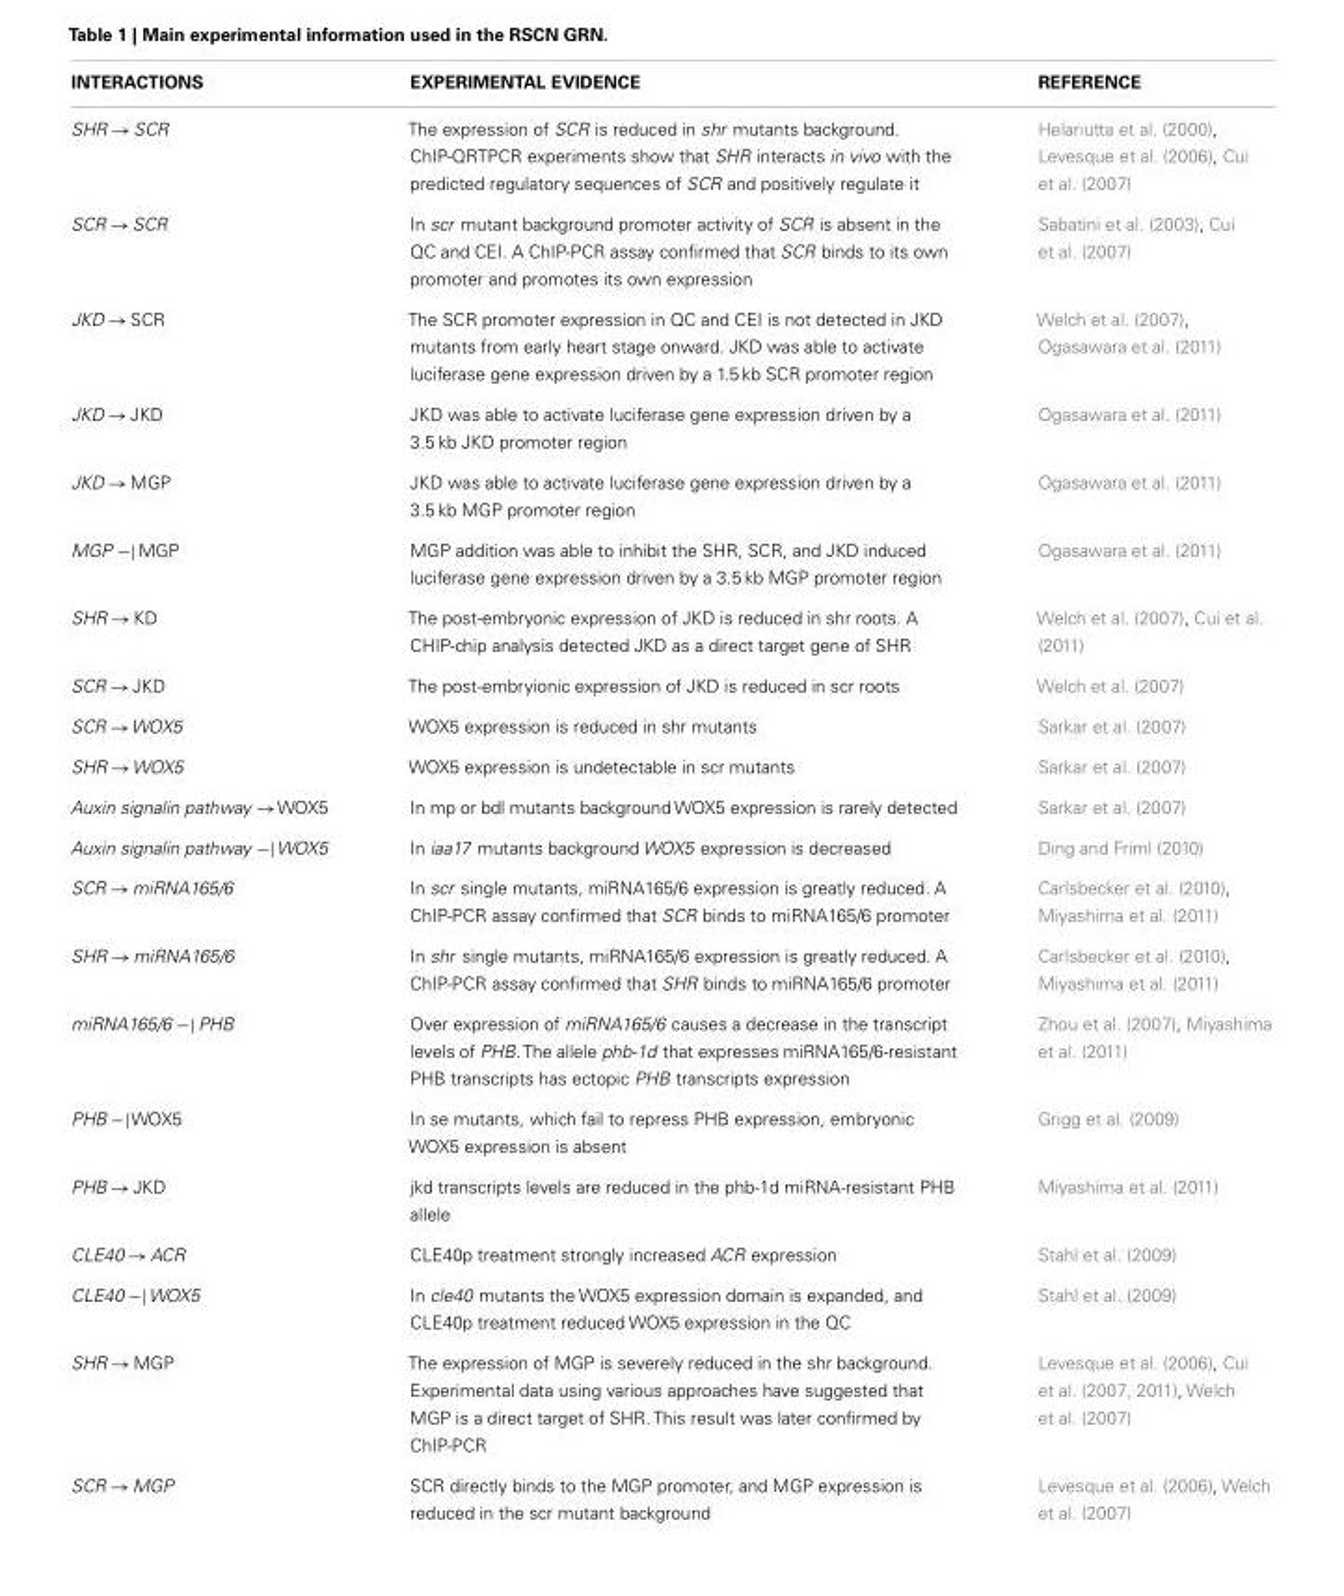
<table><thead><tr><td>INTERACTIONS</td><td>EXPERIMENTAL EVIDENCE</td><td>REFERENCE</td></tr></thead><tbody><tr><td>SHR → SCR</td><td>The expression of SCR is reduced in shr mutants background. ChIP-QRTPCR experiments show that SHR interacts in vivo with the predicted regulatory sequences of SCR and positively regulate it</td><td>Helariutta et al. (2000), Levesque et al. (2006), Cui et al. (2007)</td></tr><tr><td>SCR → SCR</td><td>In scr mutant background promoter activity of SCR is absent in the QC and CEI. A ChIP-PCR assay confirmed that SCR binds to its own promoter and promotes its own expression</td><td>Sabatini et al. (2003), Cui et al. (2007)</td></tr><tr><td>JKD → SCR</td><td>The SCR promoter expression in QC and CEI is not detected in JKD mutants from early heart stage onward. JKD was able to activate luciferase gene expression driven by a 1.5 kb SCR promoter region</td><td>Welch et al. (2007), Ogasawara et al. (2011)</td></tr><tr><td>JKD → JKD</td><td>JKD was able to activate luciferase gene expression driven by a 3.5 kb JKD promoter region</td><td>Ogasawara et al. (2011)</td></tr><tr><td>JKD → MGP</td><td>JKD was able to activate luciferase gene expression driven by a 3.5 kb MGP promoter region</td><td>Ogasawara et al. (2011)</td></tr><tr><td>MGP −| MGP</td><td>MGP addition was able to inhibit the SHR, SCR, and JKD induced luciferase gene expression driven by a 3.5 kb MGP promoter region</td><td>Ogasawara et al. (2011)</td></tr><tr><td>SHR → KD</td><td>The post-embryonic expression of JKD is reduced in shr roots. A CHIP-chip analysis detected JKD as a direct target gene of SHR</td><td>Welch et al. (2007), Cui et al. (2011)</td></tr><tr><td>SCR → JKD</td><td>The post-embryionic expression of JKD is reduced in scr roots</td><td>Welch et al. (2007)</td></tr><tr><td>SCR →WOX5</td><td>WOX5 expression is reduced in shr mutants</td><td>Sarkar et al. (2007)</td></tr><tr><td>SHR →WOX5</td><td>WOX5 expression is undetectable in scr mutants</td><td>Sarkar et al. (2007)</td></tr><tr><td>Auxin signalin pathway →WOX5</td><td>In mp or bdl mutants background WOX5 expression is rarely detected</td><td>Sarkar et al. (2007)</td></tr><tr><td>Auxin signalin pathway −|WOX5</td><td>In iaa17 mutants background WOX5 expression is decreased</td><td>Ding and Friml (2010)</td></tr><tr><td>SCR → miRNA165/6</td><td>In scr single mutants, miRNA165/6 expression is greatly reduced. A ChIP-PCR assay confirmed that SCR binds to miRNA165/6 promoter</td><td>Carlsbecker et al. (2010), Miyashima et al. (2011)</td></tr><tr><td>SHR → miRNA165/6</td><td>In shr single mutants, miRNA165/6 expression is greatly reduced. A ChIP-PCR assay confirmed that SHR binds to miRNA165/6 promoter</td><td>Carlsbecker et al. (2010), Miyashima et al. (2011)</td></tr><tr><td>miRNA165/6 −| PHB</td><td>Over expression of miRNA165/6 causes a decrease in the transcript levels of PHB.The allele phb-1d that expresses miRNA165/6-resistant PHB transcripts has ectopic PHB transcripts expression</td><td>Zhou et al. (2007), Miyashima et al. (2011)</td></tr><tr><td>PHB −|WOX5</td><td>In se mutants, which fail to repress PHB expression, embryonic WOX5 expression is absent</td><td>Grigg et al. (2009)</td></tr><tr><td>PHB → JKD</td><td>jkd transcripts levels are reduced in the phb-1d miRNA-resistant PHB allele</td><td>Miyashima et al. (2011)</td></tr><tr><td>CLE40 →ACR</td><td>CLE40p treatment strongly increased ACR expression</td><td>Stahl et al. (2009)</td></tr><tr><td>CLE40 −|WOX5</td><td>In cle40 mutants the WOX5 expression domain is expanded, and CLE40p treatment reduced WOX5 expression in the QC</td><td>Stahl et al. (2009)</td></tr><tr><td>SHR → MGP</td><td>The expression of MGP is severely reduced in the shr background. Experimental data using various approaches have suggested that MGP is a direct target of SHR. This result was later confirmed by ChIP-PCR</td><td>Levesque et al. (2006), Cui et al. (2007, 2011), Welch et al. (2007)</td></tr><tr><td>SCR → MGP</td><td>SCR directly binds to the MGP promoter, and MGP expression is reduced in the scr mutant background</td><td>Levesque et al. (2006), Welch et al. (2007)</td></tr></tbody></table>